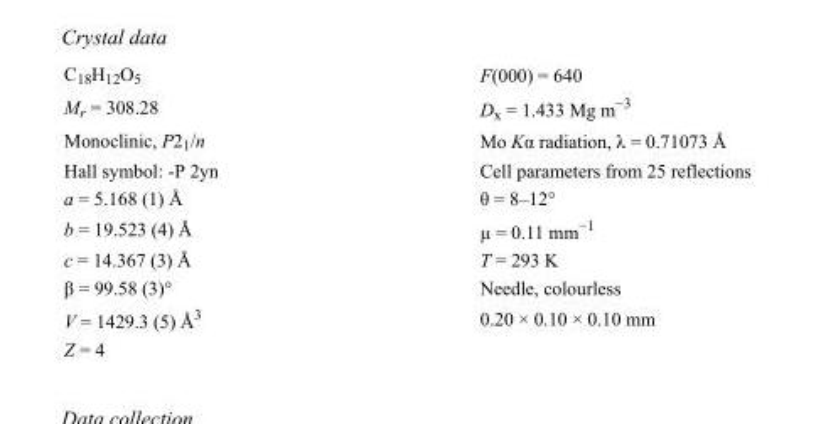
<table><tbody><tr><td>C<sub>18</sub>H<sub>12</sub>O<sub>5</sub></td><td>F(000) = 640</td></tr><tr><td>M<sub>r</sub> = 308.28</td><td>D<sub>x</sub> = 1.433 Mg m<sup>−3</sup></td></tr><tr><td>Monoclinic, P2<sub>1</sub>/n</td><td>Mo Kα radiation, λ = 0.71073 Å</td></tr><tr><td>Hall symbol: -P 2yn</td><td>Cell parameters from 25 reflections</td></tr><tr><td>a = 5.168 (1) Å</td><td>θ = 8–12°</td></tr><tr><td>b = 19.523 (4) Å</td><td>µ = 0.11 mm<sup>−1</sup></td></tr><tr><td>c = 14.367 (3) Å</td><td>T = 293 K</td></tr><tr><td>β = 99.58 (3)°</td><td>Needle, colourless</td></tr><tr><td>V = 1429.3 (5) Å<sup>3</sup></td><td>0.20 × 0.10 × 0.10 mm</td></tr><tr><td>Z = 4</td><td></td></tr></tbody></table>